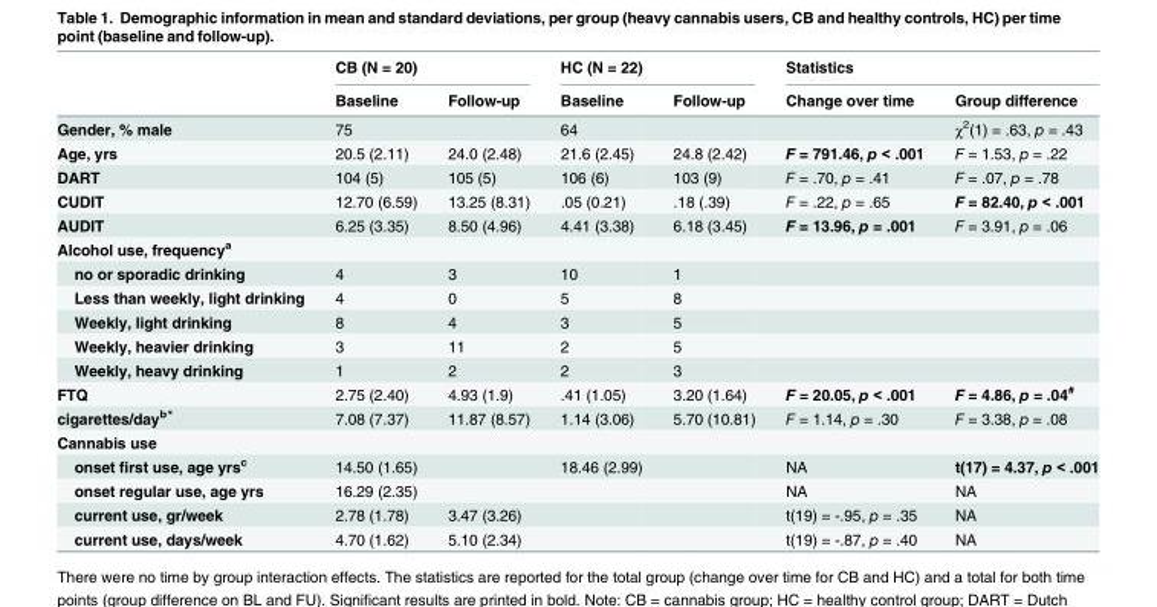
<table><thead><tr><td rowspan="2"></td><td colspan="2">CB (N = 20)</td><td colspan="2">HC (N = 22)</td><td colspan="2">Statistics</td></tr><tr><td>Baseline</td><td>Follow-up</td><td>Baseline</td><td>Follow-up</td><td>Change over time</td><td>Group difference</td></tr></thead><tbody><tr><td>Gender, % male</td><td>75</td><td></td><td>64</td><td></td><td></td><td>χ<sup>2</sup>(1) = .63, p = .43</td></tr><tr><td>Age, yrs</td><td>20.5 (2.11)</td><td>24.0 (2.48)</td><td>21.6 (2.45)</td><td>24.8 (2.42)</td><td>F = 791.46, p &lt; .001</td><td>F = 1.53, p = .22</td></tr><tr><td>DART</td><td>104 (5)</td><td>105 (5)</td><td>106 (6)</td><td>103 (9)</td><td>F = .70, p = .41</td><td>F = .07, p = .78</td></tr><tr><td>CUDIT</td><td>12.70 (6.59)</td><td>13.25 (8.31)</td><td>.05 (0.21)</td><td>.18 (.39)</td><td>F = .22, p = .65</td><td>F = 82.40, p &lt; .001</td></tr><tr><td>AUDIT</td><td>6.25 (3.35)</td><td>8.50 (4.96)</td><td>4.41 (3.38)</td><td>6.18 (3.45)</td><td>F = 13.96, p = .001</td><td>F = 3.91, p = .06</td></tr><tr><td colspan="7">Alcohol use, frequency<sup>a</sup></td></tr><tr><td>no or sporadic drinking</td><td>4</td><td>3</td><td>10</td><td>1</td><td></td><td></td></tr><tr><td>Less than weekly, light drinking</td><td>4</td><td>0</td><td>5</td><td>8</td><td></td><td></td></tr><tr><td>Weekly, light drinking</td><td>8</td><td>4</td><td>3</td><td>5</td><td></td><td></td></tr><tr><td>Weekly, heavier drinking</td><td>3</td><td>11</td><td>2</td><td>5</td><td></td><td></td></tr><tr><td>Weekly, heavy drinking</td><td>1</td><td>2</td><td>2</td><td>3</td><td></td><td></td></tr><tr><td>FTQ</td><td>2.75 (2.40)</td><td>4.93 (1.9)</td><td>.41 (1.05)</td><td>3.20 (1.64)</td><td>F = 20.05, p &lt; .001</td><td>F = 4.86, p = .04<sup>#</sup></td></tr><tr><td>cigarettes/day<sup>b*</sup></td><td>7.08 (7.37)</td><td>11.87 (8.57)</td><td>1.14 (3.06)</td><td>5.70 (10.81)</td><td>F = 1.14, p = .30</td><td>F = 3.38, p = .08</td></tr><tr><td colspan="7">Cannabis use</td></tr><tr><td>onset first use, age yrs<sup>c</sup></td><td>14.50 (1.65)</td><td></td><td>18.46 (2.99)</td><td></td><td>NA</td><td>t(17) = 4.37, p &lt; .001</td></tr><tr><td>onset regular use, age yrs</td><td>16.29 (2.35)</td><td></td><td></td><td></td><td>NA</td><td>NA</td></tr><tr><td>current use, gr/week</td><td>2.78 (1.78)</td><td>3.47 (3.26)</td><td></td><td></td><td>t(19) = -.95, p = .35</td><td>NA</td></tr><tr><td>current use, days/week</td><td>4.70 (1.62)</td><td>5.10 (2.34)</td><td></td><td></td><td>t(19) = -.87, p = .40</td><td>NA</td></tr></tbody></table>